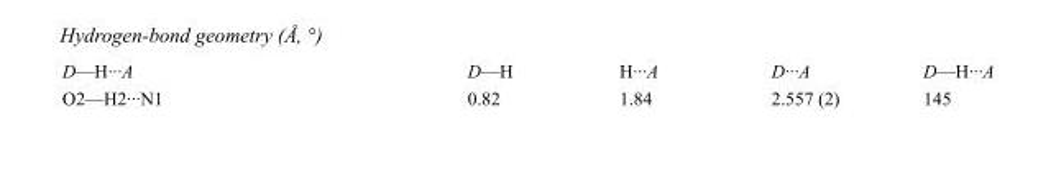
<table><tbody><tr><td>D—H···A</td><td>D—H</td><td>H···A</td><td>D···A</td><td>D—H···A</td></tr><tr><td>O2—H2···N1</td><td>0.82</td><td>1.84</td><td>2.557 (2)</td><td>145</td></tr></tbody></table>